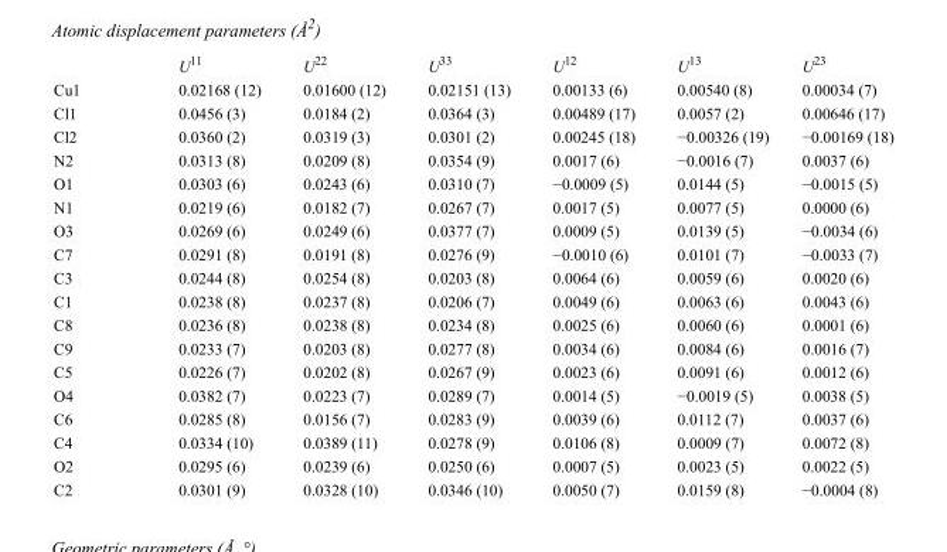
<table><thead><tr><td></td><td>U<sup>11</sup></td><td>U<sup>22</sup></td><td>U<sup>33</sup></td><td>U<sup>12</sup></td><td>U<sup>13</sup></td><td>U<sup>23</sup></td></tr></thead><tbody><tr><td>Cu1</td><td>0.02168 (12)</td><td>0.01600 (12)</td><td>0.02151 (13)</td><td>0.00133 (6)</td><td>0.00540 (8)</td><td>0.00034 (7)</td></tr><tr><td>Cl1</td><td>0.0456 (3)</td><td>0.0184 (2)</td><td>0.0364 (3)</td><td>0.00489 (17)</td><td>0.0057 (2)</td><td>0.00646 (17)</td></tr><tr><td>Cl2</td><td>0.0360 (2)</td><td>0.0319 (3)</td><td>0.0301 (2)</td><td>0.00245 (18)</td><td>−0.00326 (19)</td><td>−0.00169 (18)</td></tr><tr><td>N2</td><td>0.0313 (8)</td><td>0.0209 (8)</td><td>0.0354 (9)</td><td>0.0017 (6)</td><td>−0.0016 (7)</td><td>0.0037 (6)</td></tr><tr><td>O1</td><td>0.0303 (6)</td><td>0.0243 (6)</td><td>0.0310 (7)</td><td>−0.0009 (5)</td><td>0.0144 (5)</td><td>−0.0015 (5)</td></tr><tr><td>N1</td><td>0.0219 (6)</td><td>0.0182 (7)</td><td>0.0267 (7)</td><td>0.0017 (5)</td><td>0.0077 (5)</td><td>0.0000 (6)</td></tr><tr><td>O3</td><td>0.0269 (6)</td><td>0.0249 (6)</td><td>0.0377 (7)</td><td>0.0009 (5)</td><td>0.0139 (5)</td><td>−0.0034 (6)</td></tr><tr><td>C7</td><td>0.0291 (8)</td><td>0.0191 (8)</td><td>0.0276 (9)</td><td>−0.0010 (6)</td><td>0.0101 (7)</td><td>−0.0033 (7)</td></tr><tr><td>C3</td><td>0.0244 (8)</td><td>0.0254 (8)</td><td>0.0203 (8)</td><td>0.0064 (6)</td><td>0.0059 (6)</td><td>0.0020 (6)</td></tr><tr><td>C1</td><td>0.0238 (8)</td><td>0.0237 (8)</td><td>0.0206 (7)</td><td>0.0049 (6)</td><td>0.0063 (6)</td><td>0.0043 (6)</td></tr><tr><td>C8</td><td>0.0236 (8)</td><td>0.0238 (8)</td><td>0.0234 (8)</td><td>0.0025 (6)</td><td>0.0060 (6)</td><td>0.0001 (6)</td></tr><tr><td>C9</td><td>0.0233 (7)</td><td>0.0203 (8)</td><td>0.0277 (8)</td><td>0.0034 (6)</td><td>0.0084 (6)</td><td>0.0016 (7)</td></tr><tr><td>C5</td><td>0.0226 (7)</td><td>0.0202 (8)</td><td>0.0267 (9)</td><td>0.0023 (6)</td><td>0.0091 (6)</td><td>0.0012 (6)</td></tr><tr><td>O4</td><td>0.0382 (7)</td><td>0.0223 (7)</td><td>0.0289 (7)</td><td>0.0014 (5)</td><td>−0.0019 (5)</td><td>0.0038 (5)</td></tr><tr><td>C6</td><td>0.0285 (8)</td><td>0.0156 (7)</td><td>0.0283 (9)</td><td>0.0039 (6)</td><td>0.0112 (7)</td><td>0.0037 (6)</td></tr><tr><td>C4</td><td>0.0334 (10)</td><td>0.0389 (11)</td><td>0.0278 (9)</td><td>0.0106 (8)</td><td>0.0009 (7)</td><td>0.0072 (8)</td></tr><tr><td>O2</td><td>0.0295 (6)</td><td>0.0239 (6)</td><td>0.0250 (6)</td><td>0.0007 (5)</td><td>0.0023 (5)</td><td>0.0022 (5)</td></tr><tr><td>C2</td><td>0.0301 (9)</td><td>0.0328 (10)</td><td>0.0346 (10)</td><td>0.0050 (7)</td><td>0.0159 (8)</td><td>−0.0004 (8)</td></tr></tbody></table>